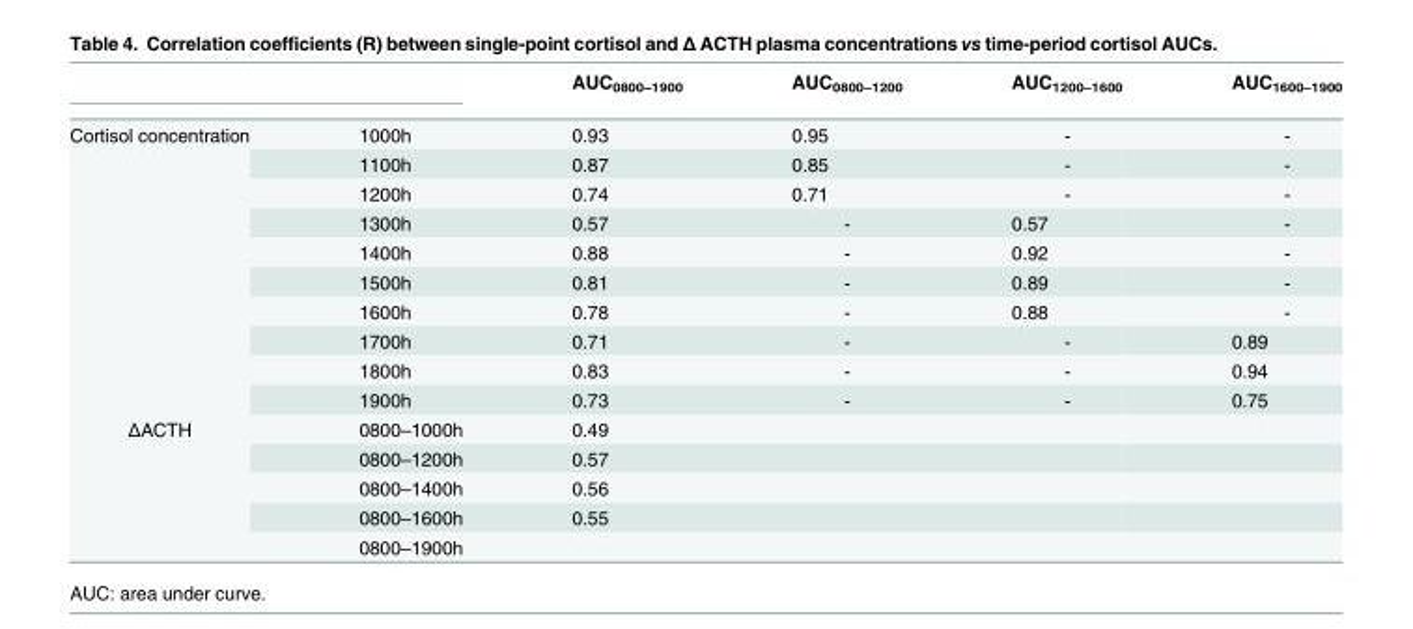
<table><thead><tr><td></td><td></td><td>AUC<sub>0800–1900</sub></td><td>AUC<sub>0800–1200</sub></td><td>AUC<sub>1200–1600</sub></td><td>AUC<sub>1600–1900</sub></td></tr></thead><tbody><tr><td rowspan="10">Cortisol concentration</td><td>1000h</td><td>0.93</td><td>0.95</td><td>-</td><td>-</td></tr><tr><td>1100h</td><td>0.87</td><td>0.85</td><td>-</td><td>-</td></tr><tr><td>1200h</td><td>0.74</td><td>0.71</td><td>-</td><td>-</td></tr><tr><td>1300h</td><td>0.57</td><td>-</td><td>0.57</td><td>-</td></tr><tr><td>1400h</td><td>0.88</td><td>-</td><td>0.92</td><td>-</td></tr><tr><td>1500h</td><td>0.81</td><td>-</td><td>0.89</td><td>-</td></tr><tr><td>1600h</td><td>0.78</td><td>-</td><td>0.88</td><td>-</td></tr><tr><td>1700h</td><td>0.71</td><td>-</td><td>-</td><td>0.89</td></tr><tr><td>1800h</td><td>0.83</td><td>-</td><td>-</td><td>0.94</td></tr><tr><td>1900h</td><td>0.73</td><td>-</td><td>-</td><td>0.75</td></tr><tr><td rowspan="5">ΔACTH</td><td>0800–1000h</td><td>0.49</td><td></td><td></td><td></td></tr><tr><td>0800–1200h</td><td>0.57</td><td></td><td></td><td></td></tr><tr><td>0800–1400h</td><td>0.56</td><td></td><td></td><td></td></tr><tr><td>0800–1600h</td><td>0.55</td><td></td><td></td><td></td></tr><tr><td>0800–1900h</td><td></td><td></td><td></td><td></td></tr></tbody></table>